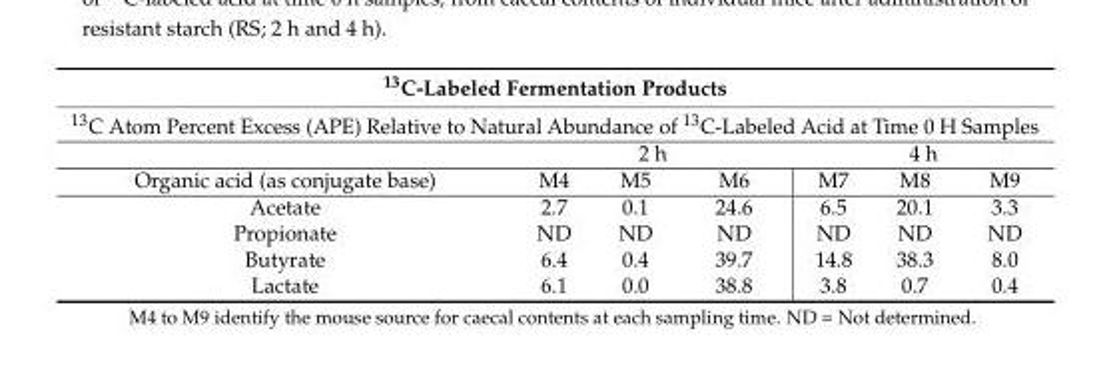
<table><thead><tr><td rowspan="2" colspan="7"><sup>13</sup>C-Labeled Fermentation Products <sup>13</sup>C Atom Percent Excess (APE) Relative to Natural Abundance of <sup>13</sup>C-Labeled Acid at Time 0 H Samples</td></tr><tr></tr><tr><td rowspan="2">Organic acid (as conjugate base)</td><td colspan="3">2 h</td><td colspan="3">4 h</td></tr><tr><td>M4</td><td>M5</td><td>M6</td><td>M7</td><td>M8</td><td>M9</td></tr></thead><tbody><tr><td>Acetate</td><td>2.7</td><td>0.1</td><td>24.6</td><td>6.5</td><td>20.1</td><td>3.3</td></tr><tr><td>Propionate</td><td>ND</td><td>ND</td><td>ND</td><td>ND</td><td>ND</td><td>ND</td></tr><tr><td>Butyrate</td><td>6.4</td><td>0.4</td><td>39.7</td><td>14.8</td><td>38.3</td><td>8.0</td></tr><tr><td>Lactate</td><td>6.1</td><td>0.0</td><td>38.8</td><td>3.8</td><td>0.7</td><td>0.4</td></tr></tbody></table>